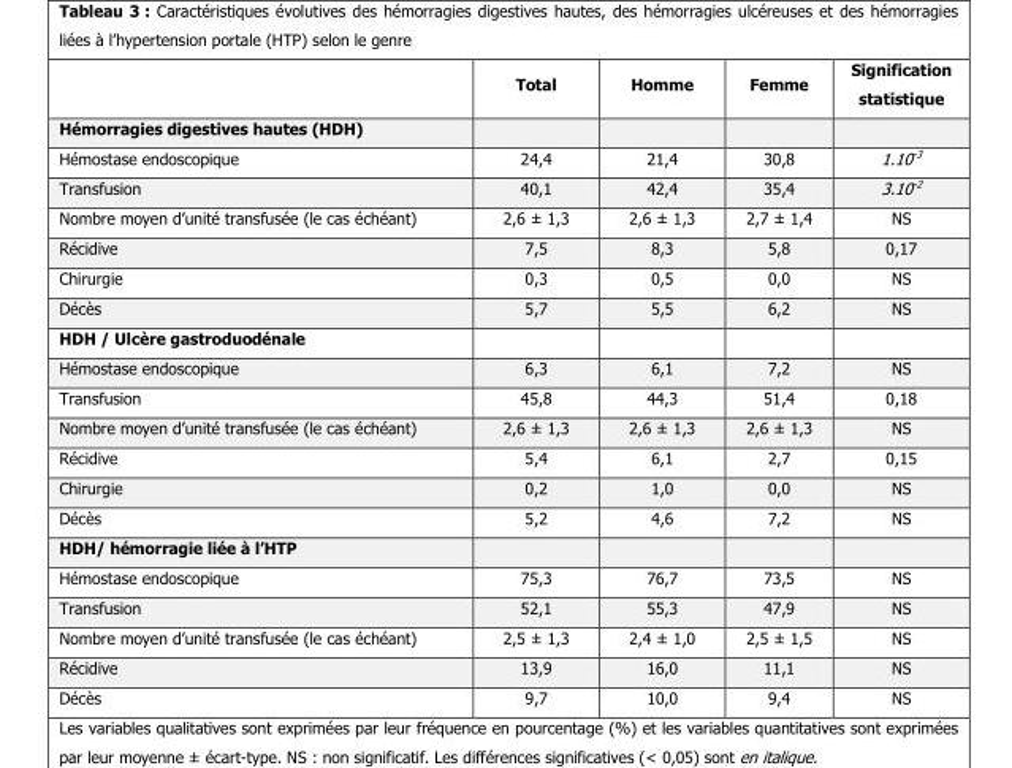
<table><thead><tr><td></td><td>Total</td><td>Homme</td><td>Femme</td><td>Signification statistique</td></tr></thead><tbody><tr><td colspan="5">Hémorragies digestives hautes (HDH)</td></tr><tr><td>Hémostase endoscopique</td><td>24,4</td><td>21,4</td><td>30,8</td><td>1.10<sup>-3</sup></td></tr><tr><td>Transfusion</td><td>40,1</td><td>42,4</td><td>35,4</td><td>3.10<sup>-2</sup></td></tr><tr><td>Nombre moyen d’unité transfusée (le cas échéant)</td><td>2,6 ± 1,3</td><td>2,6 ± 1,3</td><td>2,7 ± 1,4</td><td>NS</td></tr><tr><td>Récidive</td><td>7,5</td><td>8,3</td><td>5,8</td><td>0,17</td></tr><tr><td>Chirurgie</td><td>0,3</td><td>0,5</td><td>0,0</td><td>NS</td></tr><tr><td>Décès</td><td>5,7</td><td>5,5</td><td>6,2</td><td>NS</td></tr><tr><td colspan="5">HDH / Ulcère gastroduodénale</td></tr><tr><td>Hémostase endoscopique</td><td>6,3</td><td>6,1</td><td>7,2</td><td>NS</td></tr><tr><td>Transfusion</td><td>45,8</td><td>44,3</td><td>51,4</td><td>0,18</td></tr><tr><td>Nombre moyen d’unité transfusée (le cas échéant)</td><td>2,6 ± 1,3</td><td>2,6 ± 1,3</td><td>2,6 ± 1,3</td><td>NS</td></tr><tr><td>Récidive</td><td>5,4</td><td>6,1</td><td>2,7</td><td>0,15</td></tr><tr><td>Chirurgie</td><td>0,2</td><td>1,0</td><td>0,0</td><td>NS</td></tr><tr><td>Décès</td><td>5,2</td><td>4,6</td><td>7,2</td><td>NS</td></tr><tr><td colspan="5">HDH/ hémorragie liée à l’HTP</td></tr><tr><td>Hémostase endoscopique</td><td>75,3</td><td>76,7</td><td>73,5</td><td>NS</td></tr><tr><td>Transfusion</td><td>52,1</td><td>55,3</td><td>47,9</td><td>NS</td></tr><tr><td>Nombre moyen d’unité transfusée (le cas échéant)</td><td>2,5 ± 1,3</td><td>2,4 ± 1,0</td><td>2,5 ± 1,5</td><td>NS</td></tr><tr><td>Récidive</td><td>13,9</td><td>16,0</td><td>11,1</td><td>NS</td></tr><tr><td>Décès</td><td>9,7</td><td>10,0</td><td>9,4</td><td>NS</td></tr></tbody></table>